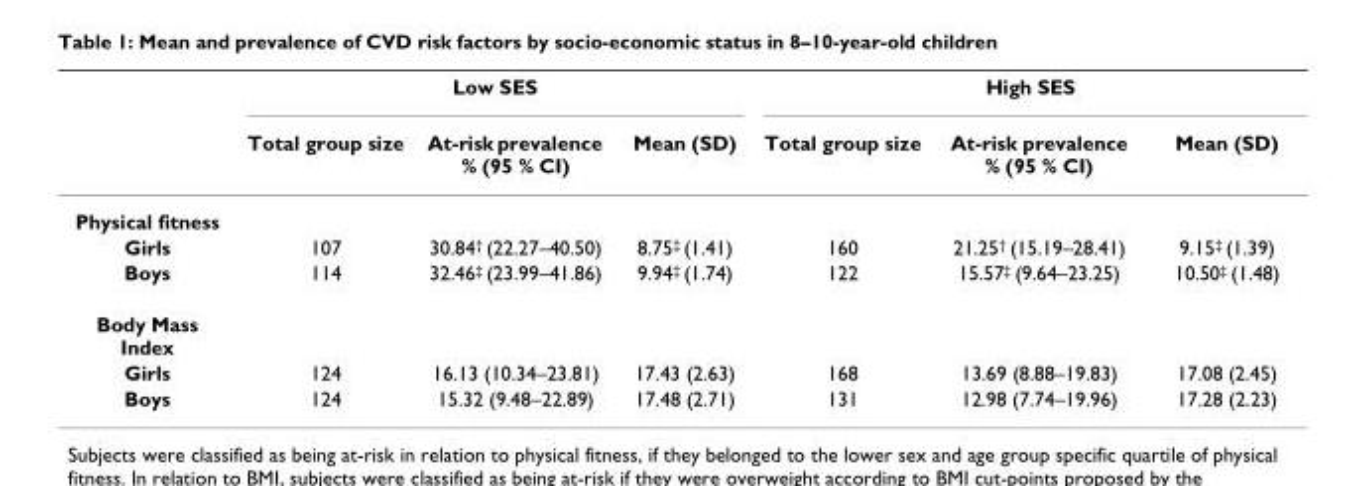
<table><thead><tr><td rowspan="2"></td><td colspan="3">Low SES</td><td colspan="3">High SES</td></tr><tr><td>Total group size</td><td>At-risk prevalence % (95 % CI)</td><td>Mean (SD)</td><td>Total group size</td><td>At-risk prevalence % (95 % CI)</td><td>Mean (SD)</td></tr></thead><tbody><tr><td colspan="7">Physical fitness</td></tr><tr><td>Girls</td><td>107</td><td>30.84† (22.27–40.50)</td><td>8.75‡ (1.41)</td><td>160</td><td>21.25† (15.19–28.41)</td><td>9.15‡ (1.39)</td></tr><tr><td>Boys</td><td>114</td><td>32.46‡ (23.99–41.86)</td><td>9.94‡ (1.74)</td><td>122</td><td>15.57‡ (9.64–23.25)</td><td>10.50‡ (1.48)</td></tr><tr><td colspan="7">Body Mass Index</td></tr><tr><td>Girls</td><td>124</td><td>16.13 (10.34–23.81)</td><td>17.43 (2.63)</td><td>168</td><td>13.69 (8.88–19.83)</td><td>17.08 (2.45)</td></tr><tr><td>Boys</td><td>124</td><td>15.32 (9.48–22.89)</td><td>17.48 (2.71)</td><td>131</td><td>12.98 (7.74–19.96)</td><td>17.28 (2.23)</td></tr></tbody></table>